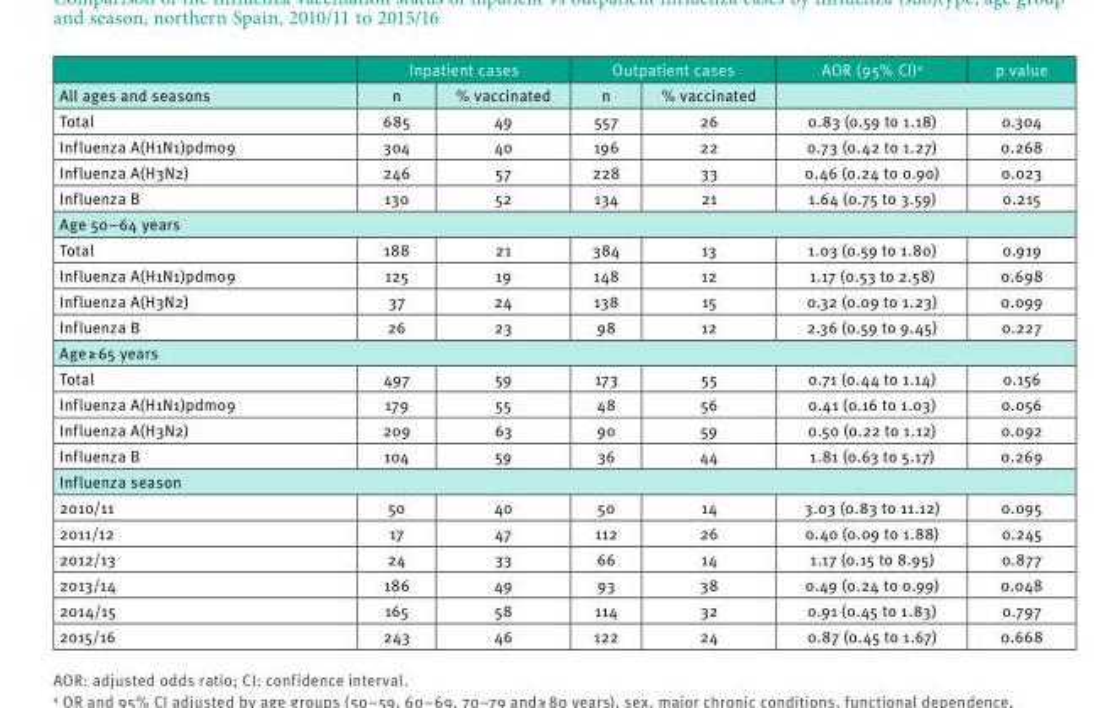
<table><thead><tr><td rowspan="2">All ages and seasons</td><td colspan="2">Inpatient cases</td><td colspan="2">Outpatient cases</td><td>AOR (95% CI)<sup>a</sup></td><td>p value</td></tr><tr><td>n</td><td>% vaccinated</td><td>n</td><td>% vaccinated</td><td colspan="2"></td></tr></thead><tbody><tr><td>Total</td><td>685</td><td>49</td><td>557</td><td>26</td><td>0.83 (0.59 to 1.18)</td><td>0.304</td></tr><tr><td>Influenza A(H1N1)pdm09</td><td>304</td><td>40</td><td>196</td><td>22</td><td>0.73 (0.42 to 1.27)</td><td>0.268</td></tr><tr><td>Influenza A(H3N2)</td><td>246</td><td>57</td><td>228</td><td>33</td><td>0.46 (0.24 to 0.90)</td><td>0.023</td></tr><tr><td>Influenza B</td><td>130</td><td>52</td><td>134</td><td>21</td><td>1.64 (0.75 to 3.59)</td><td>0.215</td></tr><tr><td colspan="7">Age 50–64 years</td></tr><tr><td>Total</td><td>188</td><td>21</td><td>384</td><td>13</td><td>1.03 (0.59 to 1.80)</td><td>0.919</td></tr><tr><td>Influenza A(H1N1)pdm09</td><td>125</td><td>19</td><td>148</td><td>12</td><td>1.17 (0.53 to 2.58)</td><td>0.698</td></tr><tr><td>Influenza A(H3N2)</td><td>37</td><td>24</td><td>138</td><td>15</td><td>0.32 (0.09 to 1.23)</td><td>0.099</td></tr><tr><td>Influenza B</td><td>26</td><td>23</td><td>98</td><td>12</td><td>2.36 (0.59 to 9.45)</td><td>0.227</td></tr><tr><td colspan="7">Age ≥ 65 years</td></tr><tr><td>Total</td><td>497</td><td>59</td><td>173</td><td>55</td><td>0.71 (0.44 to 1.14)</td><td>0.156</td></tr><tr><td>Influenza A(H1N1)pdm09</td><td>179</td><td>55</td><td>48</td><td>56</td><td>0.41 (0.16 to 1.03)</td><td>0.056</td></tr><tr><td>Influenza A(H3N2)</td><td>209</td><td>63</td><td>90</td><td>59</td><td>0.50 (0.22 to 1.12)</td><td>0.092</td></tr><tr><td>Influenza B</td><td>104</td><td>59</td><td>36</td><td>44</td><td>1.81 (0.63 to 5.17)</td><td>0.269</td></tr><tr><td colspan="7">Influenza season</td></tr><tr><td>2010/11</td><td>50</td><td>40</td><td>50</td><td>14</td><td>3.03 (0.83 to 11.12)</td><td>0.095</td></tr><tr><td>2011/12</td><td>17</td><td>47</td><td>112</td><td>26</td><td>0.40 (0.09 to 1.88)</td><td>0.245</td></tr><tr><td>2012/13</td><td>24</td><td>33</td><td>66</td><td>14</td><td>1.17 (0.15 to 8.95)</td><td>0.877</td></tr><tr><td>2013/14</td><td>186</td><td>49</td><td>93</td><td>38</td><td>0.49 (0.24 to 0.99)</td><td>0.048</td></tr><tr><td>2014/15</td><td>165</td><td>58</td><td>114</td><td>32</td><td>0.91 (0.45 to 1.83)</td><td>0.797</td></tr><tr><td>2015/16</td><td>243</td><td>46</td><td>122</td><td>24</td><td>0.87 (0.45 to 1.67)</td><td>0.668</td></tr></tbody></table>